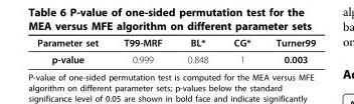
<table><thead><tr><td>Parameter set</td><td>T99-MRF</td><td>BL*</td><td>CG*</td><td>Turner99</td></tr></thead><tbody><tr><td>p-value</td><td>0.999</td><td>0.848</td><td>1</td><td>0.003</td></tr></tbody></table>